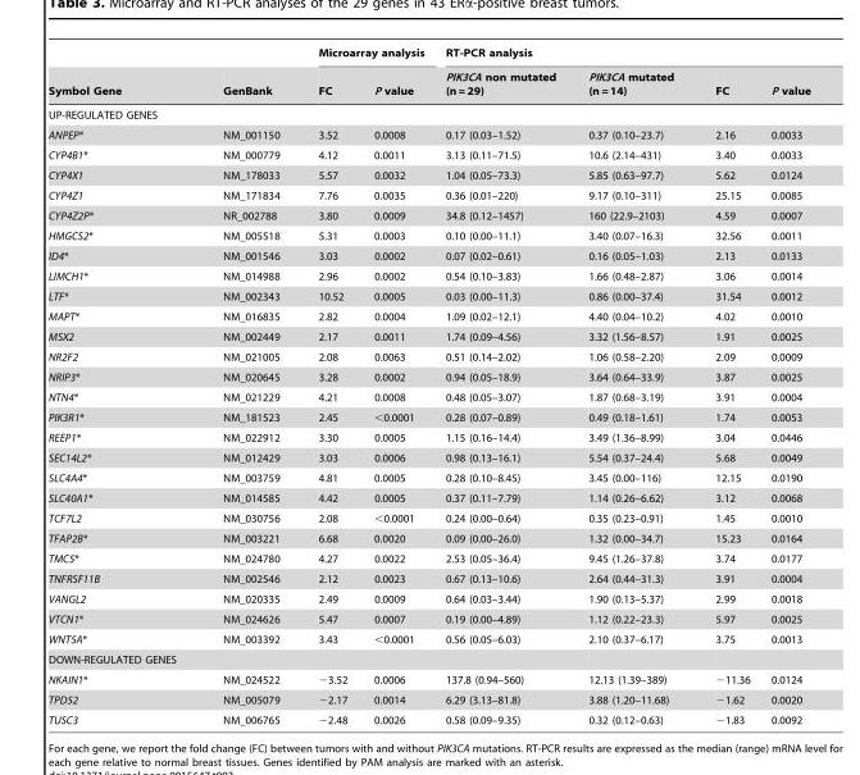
<table><thead><tr><td rowspan="2">Symbol Gene</td><td rowspan="2">GenBank</td><td colspan="2">Microarray analysis</td><td colspan="4">RT-PCR analysis</td></tr><tr><td>FC</td><td>P value</td><td>PIK3CA non mutated (n = 29)</td><td>PIK3CA mutated (n = 14)</td><td>FC</td><td>P value</td></tr></thead><tbody><tr><td colspan="8">UP-REGULATED GENES</td></tr><tr><td>ANPEP*</td><td>NM_001150</td><td>3.52</td><td>0.0008</td><td>0.17 (0.03–1.52)</td><td>0.37 (0.10–23.7)</td><td>2.16</td><td>0.0033</td></tr><tr><td>CYP4B1*</td><td>NM_000779</td><td>4.12</td><td>0.0011</td><td>3.13 (0.11–71.5)</td><td>10.6 (2.14–431)</td><td>3.40</td><td>0.0033</td></tr><tr><td>CYP4X1</td><td>NM_178033</td><td>5.57</td><td>0.0032</td><td>1.04 (0.05–73.3)</td><td>5.85 (0.63–97.7)</td><td>5.62</td><td>0.0124</td></tr><tr><td>CYP4Z1</td><td>NM_171834</td><td>7.76</td><td>0.0035</td><td>0.36 (0.01–220)</td><td>9.17 (0.10–311)</td><td>25.15</td><td>0.0085</td></tr><tr><td>CYP4Z2P*</td><td>NR_002788</td><td>3.80</td><td>0.0009</td><td>34.8 (0.12–1457)</td><td>160 (22.9–2103)</td><td>4.59</td><td>0.0007</td></tr><tr><td>HMGCS2*</td><td>NM_005518</td><td>5.31</td><td>0.0003</td><td>0.10 (0.00–11.1)</td><td>3.40 (0.07–16.3)</td><td>32.56</td><td>0.0011</td></tr><tr><td>ID4*</td><td>NM_001546</td><td>3.03</td><td>0.0002</td><td>0.07 (0.02–0.61)</td><td>0.16 (0.05–1.03)</td><td>2.13</td><td>0.0133</td></tr><tr><td>LIMCH1*</td><td>NM_014988</td><td>2.96</td><td>0.0002</td><td>0.54 (0.10–3.83)</td><td>1.66 (0.48–2.87)</td><td>3.06</td><td>0.0014</td></tr><tr><td>LTF*</td><td>NM_002343</td><td>10.52</td><td>0.0005</td><td>0.03 (0.00–11.3)</td><td>0.86 (0.00–37.4)</td><td>31.54</td><td>0.0012</td></tr><tr><td>MAPT*</td><td>NM_016835</td><td>2.82</td><td>0.0004</td><td>1.09 (0.02–12.1)</td><td>4.40 (0.04–10.2)</td><td>4.02</td><td>0.0010</td></tr><tr><td>MSX2</td><td>NM_002449</td><td>2.17</td><td>0.0011</td><td>1.74 (0.09–4.56)</td><td>3.32 (1.56–8.57)</td><td>1.91</td><td>0.0025</td></tr><tr><td>NR2F2</td><td>NM_021005</td><td>2.08</td><td>0.0063</td><td>0.51 (0.14–2.02)</td><td>1.06 (0.58–2.20)</td><td>2.09</td><td>0.0009</td></tr><tr><td>NRIP3*</td><td>NM_020645</td><td>3.28</td><td>0.0002</td><td>0.94 (0.05–18.9)</td><td>3.64 (0.64–33.9)</td><td>3.87</td><td>0.0025</td></tr><tr><td>NTN4*</td><td>NM_021229</td><td>4.21</td><td>0.0008</td><td>0.48 (0.05–3.07)</td><td>1.87 (0.68–3.19)</td><td>3.91</td><td>0.0004</td></tr><tr><td>PIK3R1*</td><td>NM_181523</td><td>2.45</td><td>&lt;0.0001</td><td>0.28 (0.07–0.89)</td><td>0.49 (0.18–1.61)</td><td>1.74</td><td>0.0053</td></tr><tr><td>REEP1*</td><td>NM_022912</td><td>3.30</td><td>0.0005</td><td>1.15 (0.16–14.4)</td><td>3.49 (1.36–8.99)</td><td>3.04</td><td>0.0446</td></tr><tr><td>SEC14L2*</td><td>NM_012429</td><td>3.03</td><td>0.0006</td><td>0.98 (0.13–16.1)</td><td>5.54 (0.37–24.4)</td><td>5.68</td><td>0.0049</td></tr><tr><td>SLC4A4*</td><td>NM_003759</td><td>4.81</td><td>0.0005</td><td>0.28 (0.10–8.45)</td><td>3.45 (0.00–116)</td><td>12.15</td><td>0.0190</td></tr><tr><td>SLC40A1*</td><td>NM_014585</td><td>4.42</td><td>0.0005</td><td>0.37 (0.11–7.79)</td><td>1.14 (0.26–6.62)</td><td>3.12</td><td>0.0068</td></tr><tr><td>TCF7L2</td><td>NM_030756</td><td>2.08</td><td>&lt;0.0001</td><td>0.24 (0.00–0.64)</td><td>0.35 (0.23–0.91)</td><td>1.45</td><td>0.0010</td></tr><tr><td>TFAP2B*</td><td>NM_003221</td><td>6.68</td><td>0.0020</td><td>0.09 (0.00–26.0)</td><td>1.32 (0.00–34.7)</td><td>15.23</td><td>0.0164</td></tr><tr><td>TMC5*</td><td>NM_024780</td><td>4.27</td><td>0.0022</td><td>2.53 (0.05–36.4)</td><td>9.45 (1.26–37.8)</td><td>3.74</td><td>0.0177</td></tr><tr><td>TNFRSF11B</td><td>NM_002546</td><td>2.12</td><td>0.0023</td><td>0.67 (0.13–10.6)</td><td>2.64 (0.44–31.3)</td><td>3.91</td><td>0.0004</td></tr><tr><td>VANGL2</td><td>NM_020335</td><td>2.49</td><td>0.0009</td><td>0.64 (0.03–3.44)</td><td>1.90 (0.13–5.37)</td><td>2.99</td><td>0.0018</td></tr><tr><td>VTCN1*</td><td>NM_024626</td><td>5.47</td><td>0.0007</td><td>0.19 (0.00–4.89)</td><td>1.12 (0.22–23.3)</td><td>5.97</td><td>0.0025</td></tr><tr><td>WNT5A*</td><td>NM_003392</td><td>3.43</td><td>&lt;0.0001</td><td>0.56 (0.05–6.03)</td><td>2.10 (0.37–6.17)</td><td>3.75</td><td>0.0013</td></tr><tr><td colspan="8">DOWN-REGULATED GENES</td></tr><tr><td>NKAIN1*</td><td>NM_024522</td><td>−3.52</td><td>0.0006</td><td>137.8 (0.94–560)</td><td>12.13 (1.39–389)</td><td>−11.36</td><td>0.0124</td></tr><tr><td>TPD52</td><td>NM_005079</td><td>−2.17</td><td>0.0014</td><td>6.29 (3.13–81.8)</td><td>3.88 (1.20–11.68)</td><td>−1.62</td><td>0.0020</td></tr><tr><td>TUSC3</td><td>NM_006765</td><td>−2.48</td><td>0.0026</td><td>0.58 (0.09–9.35)</td><td>0.32 (0.12–0.63)</td><td>−1.83</td><td>0.0092</td></tr></tbody></table>